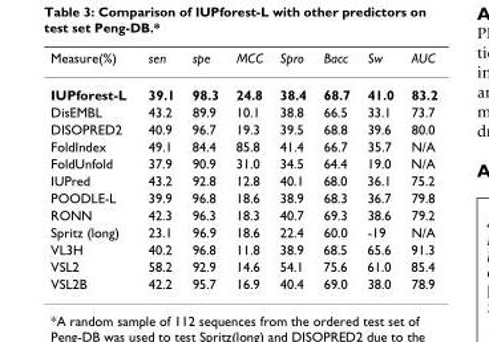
<table><thead><tr><td>Measure(%)</td><td>sen</td><td>spe</td><td>MCC</td><td>Spro</td><td>Bacc</td><td>Sw</td><td>AUC</td></tr></thead><tbody><tr><td>IUPforest-L</td><td>39.1</td><td>98.3</td><td>24.8</td><td>38.4</td><td>68.7</td><td>41.0</td><td>83.2</td></tr><tr><td>DisEMBL</td><td>43.2</td><td>89.9</td><td>10.1</td><td>38.8</td><td>66.5</td><td>33.1</td><td>73.7</td></tr><tr><td>DISOPRED2</td><td>40.9</td><td>96.7</td><td>19.3</td><td>39.5</td><td>68.8</td><td>39.6</td><td>80.0</td></tr><tr><td>FoldIndex</td><td>49.1</td><td>84.4</td><td>85.8</td><td>41.4</td><td>66.7</td><td>35.7</td><td>N/A</td></tr><tr><td>FoldUnfold</td><td>37.9</td><td>90.9</td><td>31.0</td><td>34.5</td><td>64.4</td><td>19.0</td><td>N/A</td></tr><tr><td>IUPred</td><td>43.2</td><td>92.8</td><td>12.8</td><td>40.1</td><td>68.0</td><td>36.1</td><td>75.2</td></tr><tr><td>POODLE-L</td><td>39.9</td><td>96.8</td><td>18.6</td><td>38.9</td><td>68.3</td><td>36.7</td><td>79.8</td></tr><tr><td>RONN</td><td>42.3</td><td>96.3</td><td>18.3</td><td>40.7</td><td>69.3</td><td>38.6</td><td>79.2</td></tr><tr><td>Spritz (long)</td><td>23.1</td><td>96.9</td><td>18.6</td><td>22.4</td><td>60.0</td><td>-19</td><td>N/A</td></tr><tr><td>VL3H</td><td>40.2</td><td>96.8</td><td>11.8</td><td>38.9</td><td>68.5</td><td>65.6</td><td>91.3</td></tr><tr><td>VSL2</td><td>58.2</td><td>92.9</td><td>14.6</td><td>54.1</td><td>75.6</td><td>61.0</td><td>85.4</td></tr><tr><td>VSL2B</td><td>42.2</td><td>95.7</td><td>16.9</td><td>40.4</td><td>69.0</td><td>38.0</td><td>78.9</td></tr></tbody></table>